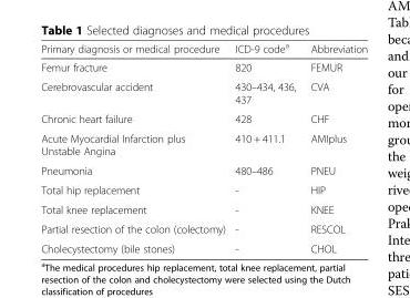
<table><thead><tr><td>Primary diagnosis or medical procedure</td><td>ICD-9 code<sup>a</sup></td><td>Abbreviation</td></tr></thead><tbody><tr><td>Femur fracture</td><td>820</td><td>FEMUR</td></tr><tr><td>Cerebrovascular accident</td><td>430–434, 436, 437</td><td>CVA</td></tr><tr><td>Chronic heart failure</td><td>428</td><td>CHF</td></tr><tr><td>Acute Myocardial Infarction plus Unstable Angina</td><td>410 + 411.1</td><td>AMIplus</td></tr><tr><td>Pneumonia</td><td>480–486</td><td>PNEU</td></tr><tr><td>Total hip replacement</td><td>-</td><td>HIP</td></tr><tr><td>Total knee replacement</td><td>-</td><td>KNEE</td></tr><tr><td>Partial resection of the colon (colectomy)</td><td>-</td><td>RESCOL</td></tr><tr><td>Cholecystectomy (bile stones)</td><td>-</td><td>CHOL</td></tr></tbody></table>